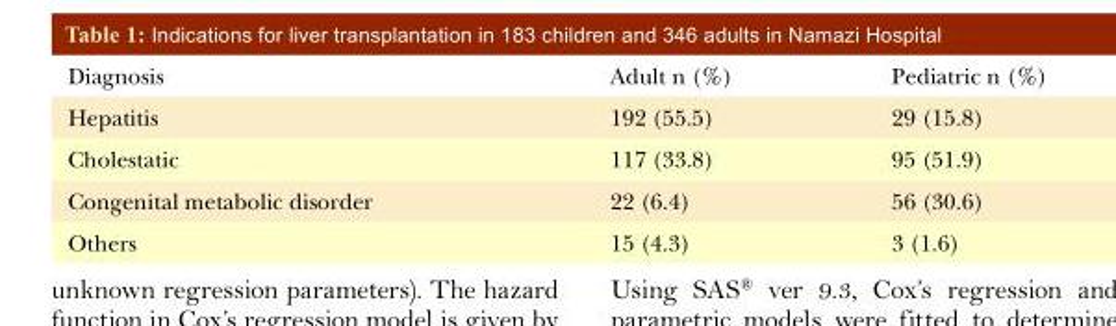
<table><thead><tr><td>Diagnosis</td><td>Adult n (%)</td><td>Pediatric n (%)</td></tr></thead><tbody><tr><td>Hepatitis</td><td>192 (55.5)</td><td>29 (15.8)</td></tr><tr><td>Cholestatic</td><td>117 (33.8)</td><td>95 (51.9)</td></tr><tr><td>Congenital metabolic disorder</td><td>22 (6.4)</td><td>56 (30.6)</td></tr><tr><td>Others</td><td>15 (4.3)</td><td>3 (1.6)</td></tr></tbody></table>